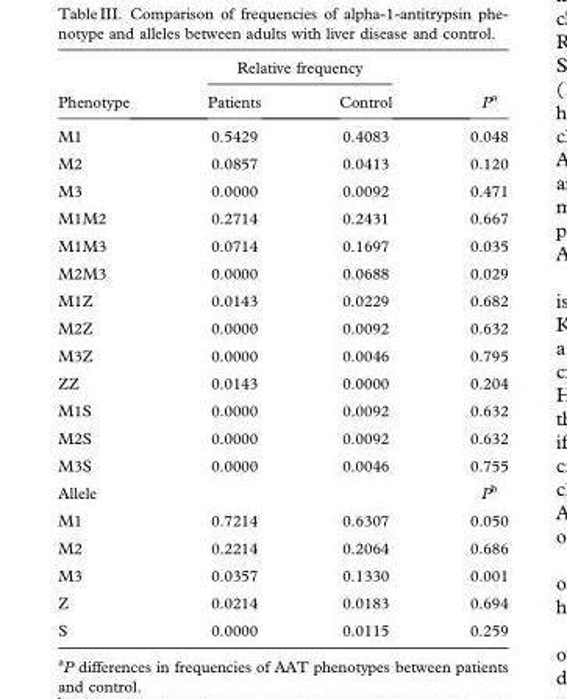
<table><thead><tr><td rowspan="2">Phenotype</td><td colspan="2">Relative frequency</td><td rowspan="2">P<sup>a</sup></td></tr><tr><td>Patients</td><td>Control</td></tr></thead><tbody><tr><td>M1</td><td>0.5429</td><td>0.4083</td><td>0.048</td></tr><tr><td>M2</td><td>0.0857</td><td>0.0413</td><td>0.120</td></tr><tr><td>M3</td><td>0.0000</td><td>0.0092</td><td>0.471</td></tr><tr><td>M1M2</td><td>0.2714</td><td>0.2431</td><td>0.667</td></tr><tr><td>M1M3</td><td>0.0714</td><td>0.1697</td><td>0.035</td></tr><tr><td>M2M3</td><td>0.0000</td><td>0.0688</td><td>0.029</td></tr><tr><td>M1Z</td><td>0.0143</td><td>0.0229</td><td>0.682</td></tr><tr><td>M2Z</td><td>0.0000</td><td>0.0092</td><td>0.632</td></tr><tr><td>M3Z</td><td>0.0000</td><td>0.0046</td><td>0.795</td></tr><tr><td>ZZ</td><td>0.0143</td><td>0.0000</td><td>0.204</td></tr><tr><td>M1S</td><td>0.0000</td><td>0.0092</td><td>0.632</td></tr><tr><td>M2S</td><td>0.0000</td><td>0.0092</td><td>0.632</td></tr><tr><td>M3S</td><td>0.0000</td><td>0.0046</td><td>0.755</td></tr><tr><td>Allele</td><td></td><td></td><td>P<sup>b</sup></td></tr><tr><td>M1</td><td>0.7214</td><td>0.6307</td><td>0.050</td></tr><tr><td>M2</td><td>0.2214</td><td>0.2064</td><td>0.686</td></tr><tr><td>M3</td><td>0.0357</td><td>0.1330</td><td>0.001</td></tr><tr><td>Z</td><td>0.0214</td><td>0.0183</td><td>0.694</td></tr><tr><td>S</td><td>0.0000</td><td>0.0115</td><td>0.259</td></tr></tbody></table>